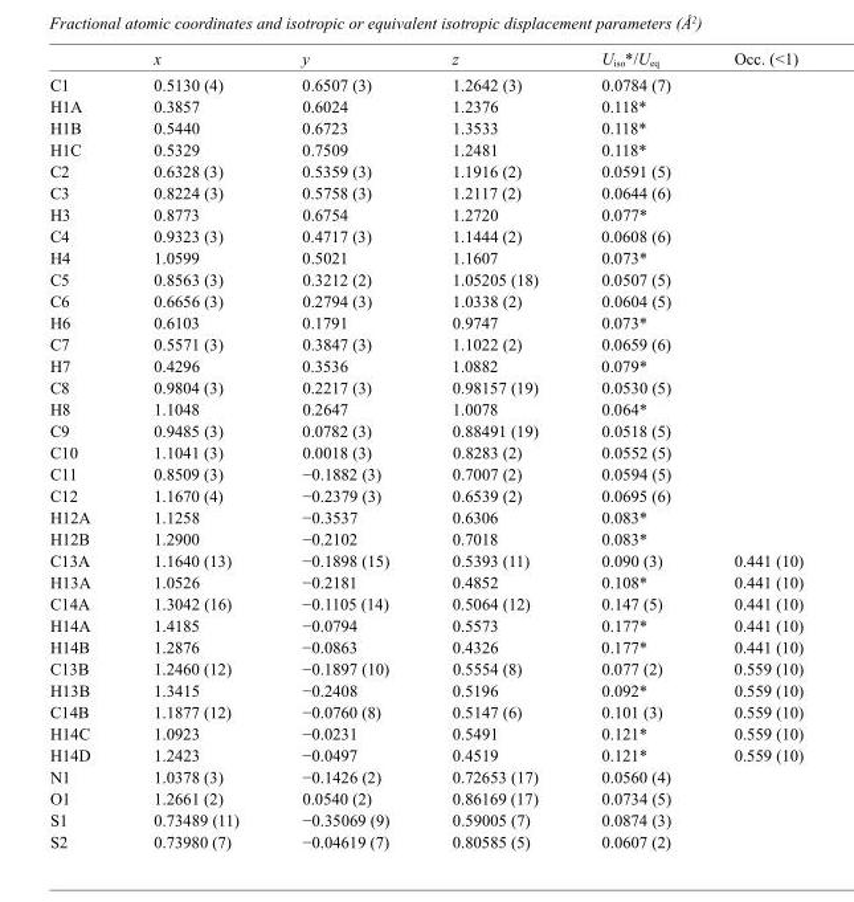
<table><thead><tr><td></td><td>x</td><td>y</td><td>z</td><td>U<sub>iso</sub>*/U<sub>eq</sub></td><td>Occ. (&lt;1)</td></tr></thead><tbody><tr><td>C1</td><td>0.5130 (4)</td><td>0.6507 (3)</td><td>1.2642 (3)</td><td>0.0784 (7)</td><td></td></tr><tr><td>H1A</td><td>0.3857</td><td>0.6024</td><td>1.2376</td><td>0.118*</td><td></td></tr><tr><td>H1B</td><td>0.5440</td><td>0.6723</td><td>1.3533</td><td>0.118*</td><td></td></tr><tr><td>H1C</td><td>0.5329</td><td>0.7509</td><td>1.2481</td><td>0.118*</td><td></td></tr><tr><td>C2</td><td>0.6328 (3)</td><td>0.5359 (3)</td><td>1.1916 (2)</td><td>0.0591 (5)</td><td></td></tr><tr><td>C3</td><td>0.8224 (3)</td><td>0.5758 (3)</td><td>1.2117 (2)</td><td>0.0644 (6)</td><td></td></tr><tr><td>H3</td><td>0.8773</td><td>0.6754</td><td>1.2720</td><td>0.077*</td><td></td></tr><tr><td>C4</td><td>0.9323 (3)</td><td>0.4717 (3)</td><td>1.1444 (2)</td><td>0.0608 (6)</td><td></td></tr><tr><td>H4</td><td>1.0599</td><td>0.5021</td><td>1.1607</td><td>0.073*</td><td></td></tr><tr><td>C5</td><td>0.8563 (3)</td><td>0.3212 (2)</td><td>1.05205 (18)</td><td>0.0507 (5)</td><td></td></tr><tr><td>C6</td><td>0.6656 (3)</td><td>0.2794 (3)</td><td>1.0338 (2)</td><td>0.0604 (5)</td><td></td></tr><tr><td>H6</td><td>0.6103</td><td>0.1791</td><td>0.9747</td><td>0.073*</td><td></td></tr><tr><td>C7</td><td>0.5571 (3)</td><td>0.3847 (3)</td><td>1.1022 (2)</td><td>0.0659 (6)</td><td></td></tr><tr><td>H7</td><td>0.4296</td><td>0.3536</td><td>1.0882</td><td>0.079*</td><td></td></tr><tr><td>C8</td><td>0.9804 (3)</td><td>0.2217 (3)</td><td>0.98157 (19)</td><td>0.0530 (5)</td><td></td></tr><tr><td>H8</td><td>1.1048</td><td>0.2647</td><td>1.0078</td><td>0.064*</td><td></td></tr><tr><td>C9</td><td>0.9485 (3)</td><td>0.0782 (3)</td><td>0.88491 (19)</td><td>0.0518 (5)</td><td></td></tr><tr><td>C10</td><td>1.1041 (3)</td><td>0.0018 (3)</td><td>0.8283 (2)</td><td>0.0552 (5)</td><td></td></tr><tr><td>C11</td><td>0.8509 (3)</td><td>−0.1882 (3)</td><td>0.7007 (2)</td><td>0.0594 (5)</td><td></td></tr><tr><td>C12</td><td>1.1670 (4)</td><td>−0.2379 (3)</td><td>0.6539 (2)</td><td>0.0695 (6)</td><td></td></tr><tr><td>H12A</td><td>1.1258</td><td>−0.3537</td><td>0.6306</td><td>0.083*</td><td></td></tr><tr><td>H12B</td><td>1.2900</td><td>−0.2102</td><td>0.7018</td><td>0.083*</td><td></td></tr><tr><td>C13A</td><td>1.1640 (13)</td><td>−0.1898 (15)</td><td>0.5393 (11)</td><td>0.090 (3)</td><td>0.441 (10)</td></tr><tr><td>H13A</td><td>1.0526</td><td>−0.2181</td><td>0.4852</td><td>0.108*</td><td>0.441 (10)</td></tr><tr><td>C14A</td><td>1.3042 (16)</td><td>−0.1105 (14)</td><td>0.5064 (12)</td><td>0.147 (5)</td><td>0.441 (10)</td></tr><tr><td>H14A</td><td>1.4185</td><td>−0.0794</td><td>0.5573</td><td>0.177*</td><td>0.441 (10)</td></tr><tr><td>H14B</td><td>1.2876</td><td>−0.0863</td><td>0.4326</td><td>0.177*</td><td>0.441 (10)</td></tr><tr><td>C13B</td><td>1.2460 (12)</td><td>−0.1897 (10)</td><td>0.5554 (8)</td><td>0.077 (2)</td><td>0.559 (10)</td></tr><tr><td>H13B</td><td>1.3415</td><td>−0.2408</td><td>0.5196</td><td>0.092*</td><td>0.559 (10)</td></tr><tr><td>C14B</td><td>1.1877 (12)</td><td>−0.0760 (8)</td><td>0.5147 (6)</td><td>0.101 (3)</td><td>0.559 (10)</td></tr><tr><td>H14C</td><td>1.0923</td><td>−0.0231</td><td>0.5491</td><td>0.121*</td><td>0.559 (10)</td></tr><tr><td>H14D</td><td>1.2423</td><td>−0.0497</td><td>0.4519</td><td>0.121*</td><td>0.559 (10)</td></tr><tr><td>N1</td><td>1.0378 (3)</td><td>−0.1426 (2)</td><td>0.72653 (17)</td><td>0.0560 (4)</td><td></td></tr><tr><td>O1</td><td>1.2661 (2)</td><td>0.0540 (2)</td><td>0.86169 (17)</td><td>0.0734 (5)</td><td></td></tr><tr><td>S1</td><td>0.73489 (11)</td><td>−0.35069 (9)</td><td>0.59005 (7)</td><td>0.0874 (3)</td><td></td></tr><tr><td>S2</td><td>0.73980 (7)</td><td>−0.04619 (7)</td><td>0.80585 (5)</td><td>0.0607 (2)</td><td></td></tr></tbody></table>